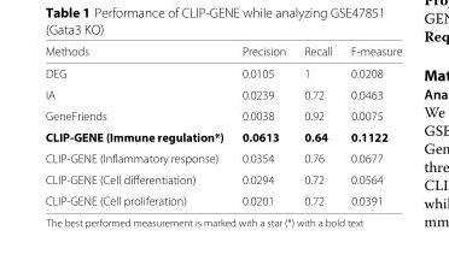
<table><thead><tr><td>Methods</td><td>Precision</td><td>Recall</td><td>F-measure</td></tr></thead><tbody><tr><td>DEG</td><td>0.0105</td><td>1</td><td>0.0208</td></tr><tr><td>IA</td><td>0.0239</td><td>0.72</td><td>0.0463</td></tr><tr><td>GeneFriends</td><td>0.0038</td><td>0.92</td><td>0.0075</td></tr><tr><td>CLIP-GENE (Immune regulation*)</td><td>0.0613</td><td>0.64</td><td>0.1122</td></tr><tr><td>CLIP-GENE (Inflammatory response)</td><td>0.0354</td><td>0.76</td><td>0.0677</td></tr><tr><td>CLIP-GENE (Cell differentiation)</td><td>0.0294</td><td>0.72</td><td>0.0564</td></tr><tr><td>CLIP-GENE (Cell proliferation)</td><td>0.0201</td><td>0.72</td><td>0.0391</td></tr></tbody></table>